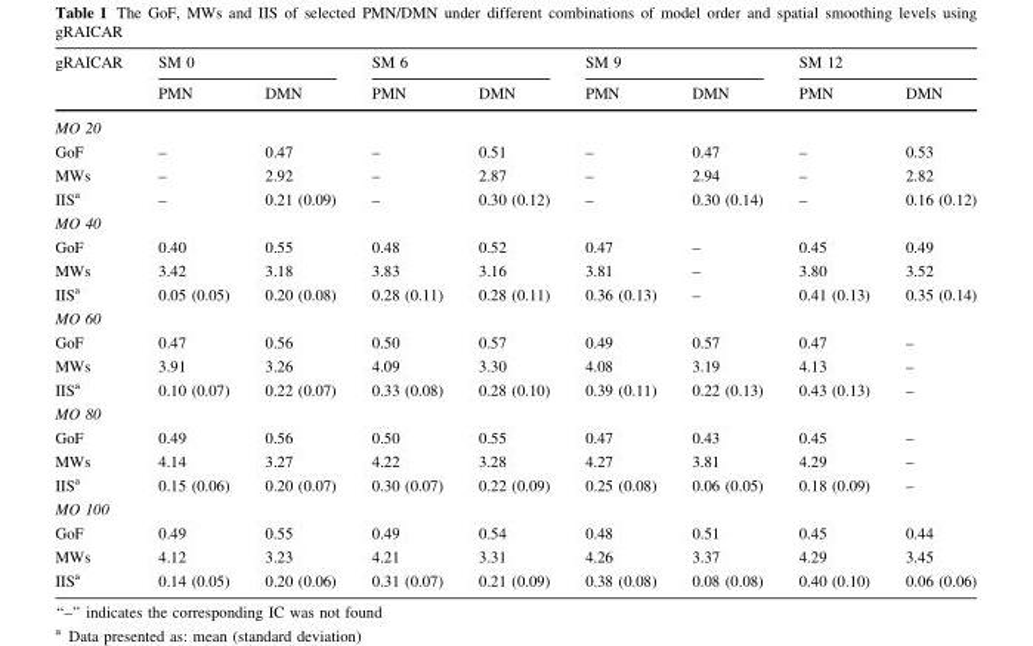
<table><thead><tr><td rowspan="2">gRAICAR</td><td colspan="2">SM 0</td><td colspan="2">SM 6</td><td colspan="2">SM 9</td><td colspan="2">SM 12</td></tr><tr><td>PMN</td><td>DMN</td><td>PMN</td><td>DMN</td><td>PMN</td><td>DMN</td><td>PMN</td><td>DMN</td></tr></thead><tbody><tr><td colspan="9">MO 20</td></tr><tr><td>GoF</td><td>–</td><td>0.47</td><td>–</td><td>0.51</td><td>–</td><td>0.47</td><td>–</td><td>0.53</td></tr><tr><td>MWs</td><td>–</td><td>2.92</td><td>–</td><td>2.87</td><td>–</td><td>2.94</td><td>–</td><td>2.82</td></tr><tr><td>IIS<sup>a</sup></td><td>–</td><td>0.21 (0.09)</td><td>–</td><td>0.30 (0.12)</td><td>–</td><td>0.30 (0.14)</td><td>–</td><td>0.16 (0.12)</td></tr><tr><td colspan="9">MO 40</td></tr><tr><td>GoF</td><td>0.40</td><td>0.55</td><td>0.48</td><td>0.52</td><td>0.47</td><td>–</td><td>0.45</td><td>0.49</td></tr><tr><td>MWs</td><td>3.42</td><td>3.18</td><td>3.83</td><td>3.16</td><td>3.81</td><td>–</td><td>3.80</td><td>3.52</td></tr><tr><td>IIS<sup>a</sup></td><td>0.05 (0.05)</td><td>0.20 (0.08)</td><td>0.28 (0.11)</td><td>0.28 (0.11)</td><td>0.36 (0.13)</td><td>–</td><td>0.41 (0.13)</td><td>0.35 (0.14)</td></tr><tr><td colspan="9">MO 60</td></tr><tr><td>GoF</td><td>0.47</td><td>0.56</td><td>0.50</td><td>0.57</td><td>0.49</td><td>0.57</td><td>0.47</td><td>–</td></tr><tr><td>MWs</td><td>3.91</td><td>3.26</td><td>4.09</td><td>3.30</td><td>4.08</td><td>3.19</td><td>4.13</td><td>–</td></tr><tr><td>IIS<sup>a</sup></td><td>0.10 (0.07)</td><td>0.22 (0.07)</td><td>0.33 (0.08)</td><td>0.28 (0.10)</td><td>0.39 (0.11)</td><td>0.22 (0.13)</td><td>0.43 (0.13)</td><td>–</td></tr><tr><td colspan="9">MO 80</td></tr><tr><td>GoF</td><td>0.49</td><td>0.56</td><td>0.50</td><td>0.55</td><td>0.47</td><td>0.43</td><td>0.45</td><td>–</td></tr><tr><td>MWs</td><td>4.14</td><td>3.27</td><td>4.22</td><td>3.28</td><td>4.27</td><td>3.81</td><td>4.29</td><td>–</td></tr><tr><td>IIS<sup>a</sup></td><td>0.15 (0.06)</td><td>0.20 (0.07)</td><td>0.30 (0.07)</td><td>0.22 (0.09)</td><td>0.25 (0.08)</td><td>0.06 (0.05)</td><td>0.18 (0.09)</td><td>–</td></tr><tr><td colspan="9">MO 100</td></tr><tr><td>GoF</td><td>0.49</td><td>0.55</td><td>0.49</td><td>0.54</td><td>0.48</td><td>0.51</td><td>0.45</td><td>0.44</td></tr><tr><td>MWs</td><td>4.12</td><td>3.23</td><td>4.21</td><td>3.31</td><td>4.26</td><td>3.37</td><td>4.29</td><td>3.45</td></tr><tr><td>IIS<sup>a</sup></td><td>0.14 (0.05)</td><td>0.20 (0.06)</td><td>0.31 (0.07)</td><td>0.21 (0.09)</td><td>0.38 (0.08)</td><td>0.08 (0.08)</td><td>0.40 (0.10)</td><td>0.06 (0.06)</td></tr></tbody></table>